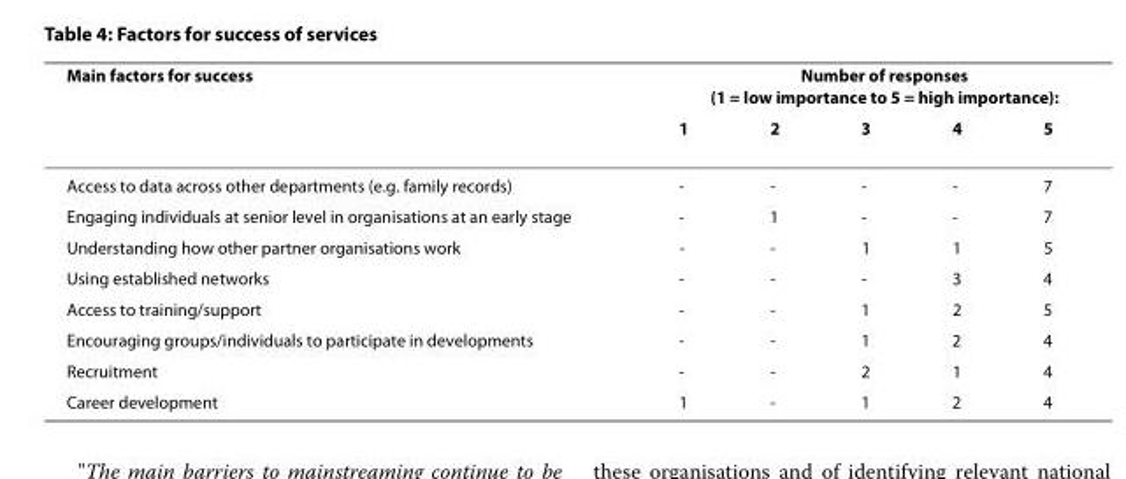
<table><thead><tr><td rowspan="2">Main factors for success</td><td colspan="5">Number of responses (1 = low importance to 5 = high importance):</td></tr><tr><td>1</td><td>2</td><td>3</td><td>4</td><td>5</td></tr></thead><tbody><tr><td>Access to data across other departments (e.g. family records)</td><td>-</td><td>-</td><td>-</td><td>-</td><td>7</td></tr><tr><td>Engaging individuals at senior level in organisations at an early stage</td><td>-</td><td>1</td><td>-</td><td>-</td><td>7</td></tr><tr><td>Understanding how other partner organisations work</td><td>-</td><td>-</td><td>1</td><td>1</td><td>5</td></tr><tr><td>Using established networks</td><td>-</td><td>-</td><td>-</td><td>3</td><td>4</td></tr><tr><td>Access to training/support</td><td>-</td><td>-</td><td>1</td><td>2</td><td>5</td></tr><tr><td>Encouraging groups/individuals to participate in developments</td><td>-</td><td>-</td><td>1</td><td>2</td><td>4</td></tr><tr><td>Recruitment</td><td>-</td><td>-</td><td>2</td><td>1</td><td>4</td></tr><tr><td>Career development</td><td>1</td><td>-</td><td>1</td><td>2</td><td>4</td></tr></tbody></table>